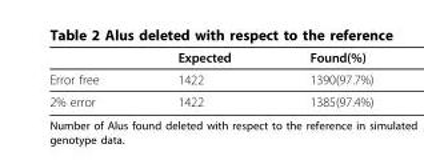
<table><thead><tr><td></td><td>Expected</td><td>Found(%)</td></tr></thead><tbody><tr><td>Error free</td><td>1422</td><td>1390(97.7%)</td></tr><tr><td>2% error</td><td>1422</td><td>1385(97.4%)</td></tr></tbody></table>